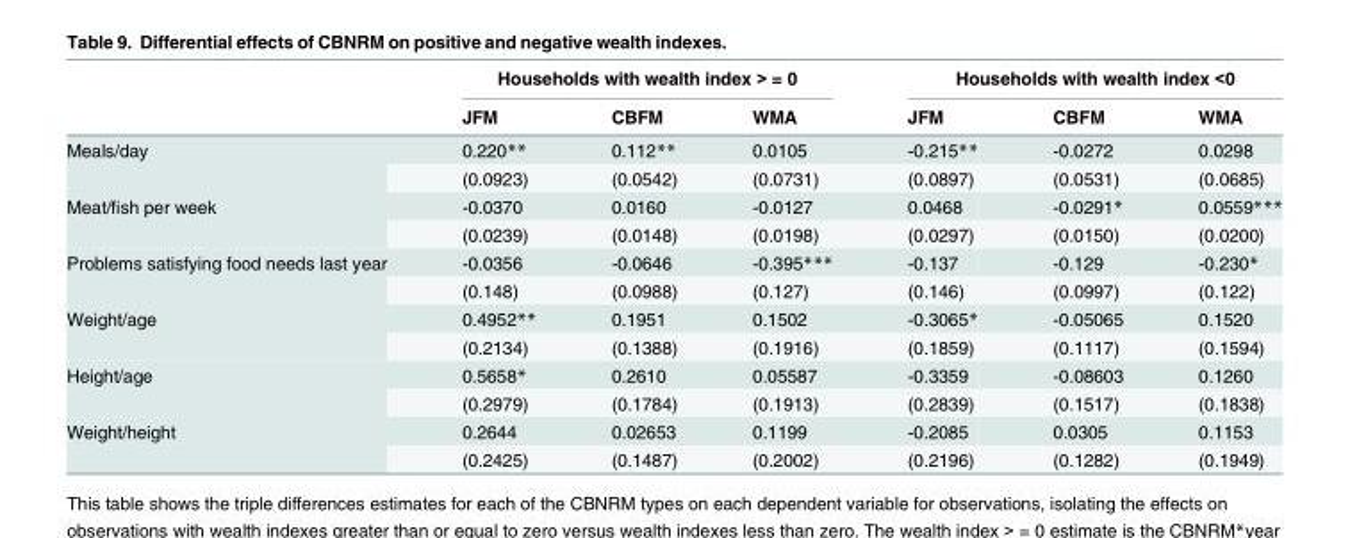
<table><thead><tr><td rowspan="2"></td><td colspan="3">Households with wealth index &gt; = 0</td><td colspan="3">Households with wealth index &lt;0</td></tr><tr><td>JFM</td><td>CBFM</td><td>WMA</td><td>JFM</td><td>CBFM</td><td>WMA</td></tr></thead><tbody><tr><td rowspan="2">Meals/day</td><td>0.220**</td><td>0.112**</td><td>0.0105</td><td>-0.215**</td><td>-0.0272</td><td>0.0298</td></tr><tr><td>(0.0923)</td><td>(0.0542)</td><td>(0.0731)</td><td>(0.0897)</td><td>(0.0531)</td><td>(0.0685)</td></tr><tr><td rowspan="2">Meat/fish per week</td><td>-0.0370</td><td>0.0160</td><td>-0.0127</td><td>0.0468</td><td>-0.0291*</td><td>0.0559***</td></tr><tr><td>(0.0239)</td><td>(0.0148)</td><td>(0.0198)</td><td>(0.0297)</td><td>(0.0150)</td><td>(0.0200)</td></tr><tr><td rowspan="2">Problems satisfying food needs last year</td><td>-0.0356</td><td>-0.0646</td><td>-0.395***</td><td>-0.137</td><td>-0.129</td><td>-0.230*</td></tr><tr><td>(0.148)</td><td>(0.0988)</td><td>(0.127)</td><td>(0.146)</td><td>(0.0997)</td><td>(0.122)</td></tr><tr><td rowspan="2">Weight/age</td><td>0.4952**</td><td>0.1951</td><td>0.1502</td><td>-0.3065*</td><td>-0.05065</td><td>0.1520</td></tr><tr><td>(0.2134)</td><td>(0.1388)</td><td>(0.1916)</td><td>(0.1859)</td><td>(0.1117)</td><td>(0.1594)</td></tr><tr><td rowspan="2">Height/age</td><td>0.5658*</td><td>0.2610</td><td>0.05587</td><td>-0.3359</td><td>-0.08603</td><td>0.1260</td></tr><tr><td>(0.2979)</td><td>(0.1784)</td><td>(0.1913)</td><td>(0.2839)</td><td>(0.1517)</td><td>(0.1838)</td></tr><tr><td rowspan="2">Weight/height</td><td>0.2644</td><td>0.02653</td><td>0.1199</td><td>-0.2085</td><td>0.0305</td><td>0.1153</td></tr><tr><td>(0.2425)</td><td>(0.1487)</td><td>(0.2002)</td><td>(0.2196)</td><td>(0.1282)</td><td>(0.1949)</td></tr></tbody></table>